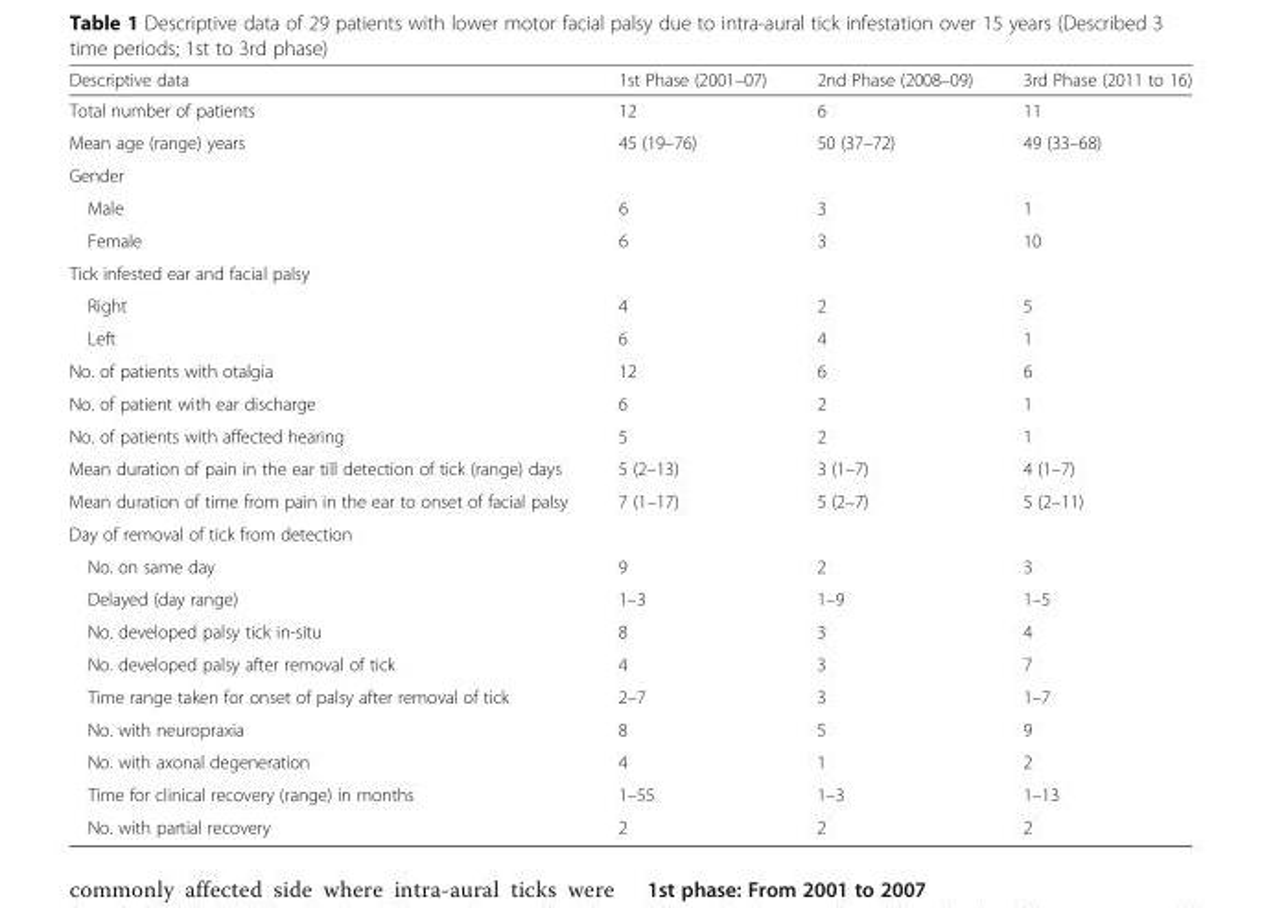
<table><thead><tr><td>Descriptive data</td><td>1st Phase (2001–07)</td><td>2nd Phase (2008–09)</td><td>3rd Phase (2011 to 16)</td></tr></thead><tbody><tr><td>Total number of patients</td><td>12</td><td>6</td><td>11</td></tr><tr><td>Mean age (range) years</td><td>45 (19–76)</td><td>50 (37–72)</td><td>49 (33–68)</td></tr><tr><td colspan="4">Gender</td></tr><tr><td>Male</td><td>6</td><td>3</td><td>1</td></tr><tr><td>Female</td><td>6</td><td>3</td><td>10</td></tr><tr><td colspan="4">Tick infested ear and facial palsy</td></tr><tr><td>Right</td><td>4</td><td>2</td><td>5</td></tr><tr><td>Left</td><td>6</td><td>4</td><td>1</td></tr><tr><td>No. of patients with otalgia</td><td>12</td><td>6</td><td>6</td></tr><tr><td>No. of patient with ear discharge</td><td>6</td><td>2</td><td>1</td></tr><tr><td>No. of patients with affected hearing</td><td>5</td><td>2</td><td>1</td></tr><tr><td>Mean duration of pain in the ear till detection of tick (range) days</td><td>5 (2–13)</td><td>3 (1–7)</td><td>4 (1–7)</td></tr><tr><td>Mean duration of time from pain in the ear to onset of facial palsy</td><td>7 (1–17)</td><td>5 (2–7)</td><td>5 (2–11)</td></tr><tr><td colspan="4">Day of removal of tick from detection</td></tr><tr><td>No. on same day</td><td>9</td><td>2</td><td>3</td></tr><tr><td>Delayed (day range)</td><td>1–3</td><td>1–9</td><td>1–5</td></tr><tr><td>No. developed palsy tick in-situ</td><td>8</td><td>3</td><td>4</td></tr><tr><td>No. developed palsy after removal of tick</td><td>4</td><td>3</td><td>7</td></tr><tr><td>Time range taken for onset of palsy after removal of tick</td><td>2–7</td><td>3</td><td>1–7</td></tr><tr><td>No. with neuropraxia</td><td>8</td><td>5</td><td>9</td></tr><tr><td>No. with axonal degeneration</td><td>4</td><td>1</td><td>2</td></tr><tr><td>Time for clinical recovery (range) in months</td><td>1–55</td><td>1–3</td><td>1–13</td></tr><tr><td>No. with partial recovery</td><td>2</td><td>2</td><td>2</td></tr></tbody></table>